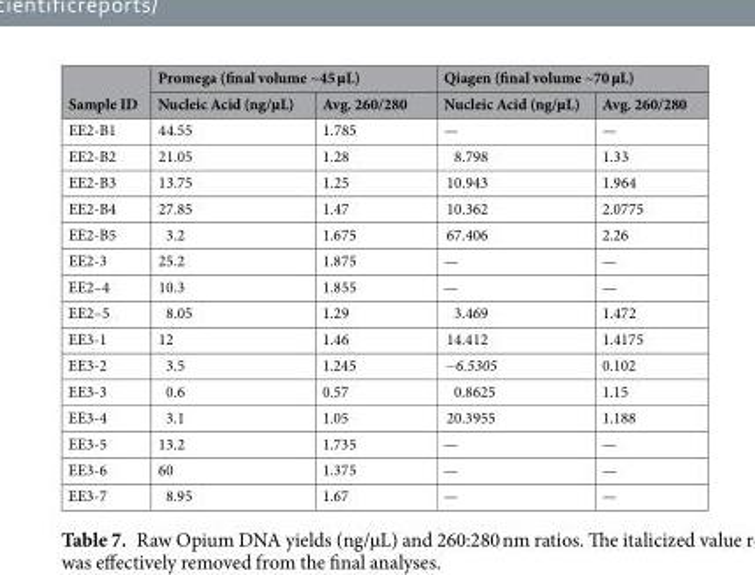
<table><thead><tr><td rowspan="2">Sample ID</td><td colspan="2">Promega (final volume ~45 µL)</td><td colspan="2">Qiagen (final volume ~70 µL)</td></tr><tr><td>Nucleic Acid (ng/µL)</td><td>Avg. 260/280</td><td>Nucleic Acid (ng/µL)</td><td>Avg. 260/280</td></tr></thead><tbody><tr><td>EE2-B1</td><td>44.55</td><td>1.785</td><td>—</td><td>—</td></tr><tr><td>EE2-B2</td><td>21.05</td><td>1.28</td><td>8.798</td><td>1.33</td></tr><tr><td>EE2-B3</td><td>13.75</td><td>1.25</td><td>10.943</td><td>1.964</td></tr><tr><td>EE2-B4</td><td>27.85</td><td>1.47</td><td>10.362</td><td>2.0775</td></tr><tr><td>EE2-B5</td><td>3.2</td><td>1.675</td><td>67.406</td><td>2.26</td></tr><tr><td>EE2-3</td><td>25.2</td><td>1.875</td><td>—</td><td>—</td></tr><tr><td>EE2–4</td><td>10.3</td><td>1.855</td><td>—</td><td>—</td></tr><tr><td>EE2–5</td><td>8.05</td><td>1.29</td><td>3.469</td><td>1.472</td></tr><tr><td>EE3-1</td><td>12</td><td>1.46</td><td>14.412</td><td>1.4175</td></tr><tr><td>EE3-2</td><td>3.5</td><td>1.245</td><td>−6.5305</td><td>0.102</td></tr><tr><td>EE3-3</td><td>0.6</td><td>0.57</td><td>0.8625</td><td>1.15</td></tr><tr><td>EE3-4</td><td>3.1</td><td>1.05</td><td>20.3955</td><td>1.188</td></tr><tr><td>EE3-5</td><td>13.2</td><td>1.735</td><td>—</td><td>—</td></tr><tr><td>EE3-6</td><td>60</td><td>1.375</td><td>—</td><td>—</td></tr><tr><td>EE3-7</td><td>8.95</td><td>1.67</td><td>—</td><td>—</td></tr></tbody></table>